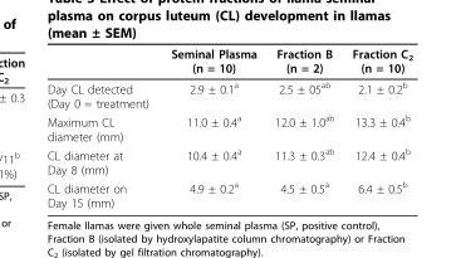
<table><thead><tr><td></td><td>Seminal Plasma (n = 10)</td><td>Fraction B (n = 2)</td><td>Fraction C<sub>2</sub> (n = 10)</td></tr></thead><tbody><tr><td>Day CL detected (Day 0 = treatment)</td><td>2.9 ± 0.1<sup>a</sup></td><td>2.5 ± 05<sup>ab</sup></td><td>2.1 ± 0.2<sup>b</sup></td></tr><tr><td>Maximum CL diameter (mm)</td><td>11.0 ± 0.4<sup>a</sup></td><td>12.0 ± 1.0<sup>ab</sup></td><td>13.3 ± 0.4<sup>b</sup></td></tr><tr><td>CL diameter at Day 8 (mm)</td><td>10.4 ± 0.4<sup>a</sup></td><td>11.3 ± 0.3<sup>ab</sup></td><td>12.4 ± 0.4<sup>b</sup></td></tr><tr><td>CL diameter on Day 15 (mm)</td><td>4.9 ± 0.2<sup>a</sup></td><td>4.5 ± 0.5<sup>a</sup></td><td>6.4 ± 0.5<sup>b</sup></td></tr></tbody></table>